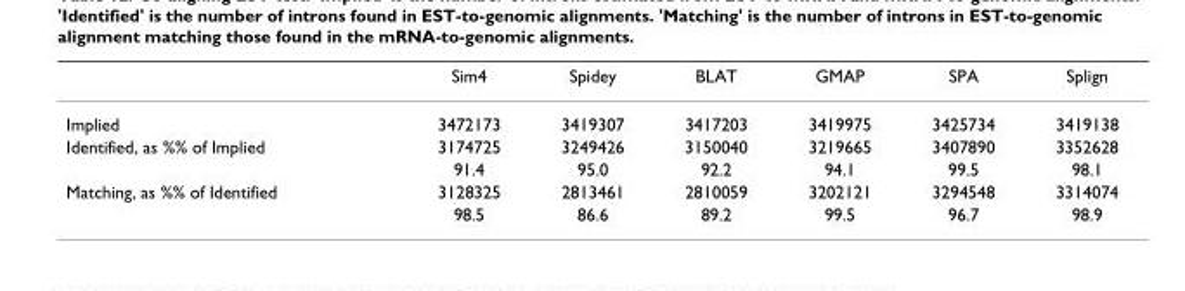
<table><thead><tr><td></td><td>Sim4</td><td>Spidey</td><td>BLAT</td><td>GMAP</td><td>SPA</td><td>Splign</td></tr></thead><tbody><tr><td>Implied</td><td>3472173</td><td>3419307</td><td>3417203</td><td>3419975</td><td>3425734</td><td>3419138</td></tr><tr><td rowspan="2">Identified, as %% of Implied</td><td>3174725</td><td>3249426</td><td>3150040</td><td>3219665</td><td>3407890</td><td>3352628</td></tr><tr><td>91.4</td><td>95.0</td><td>92.2</td><td>94.1</td><td>99.5</td><td>98.1</td></tr><tr><td rowspan="2">Matching, as %% of Identified</td><td>3128325</td><td>2813461</td><td>2810059</td><td>3202121</td><td>3294548</td><td>3314074</td></tr><tr><td>98.5</td><td>86.6</td><td>89.2</td><td>99.5</td><td>96.7</td><td>98.9</td></tr></tbody></table>